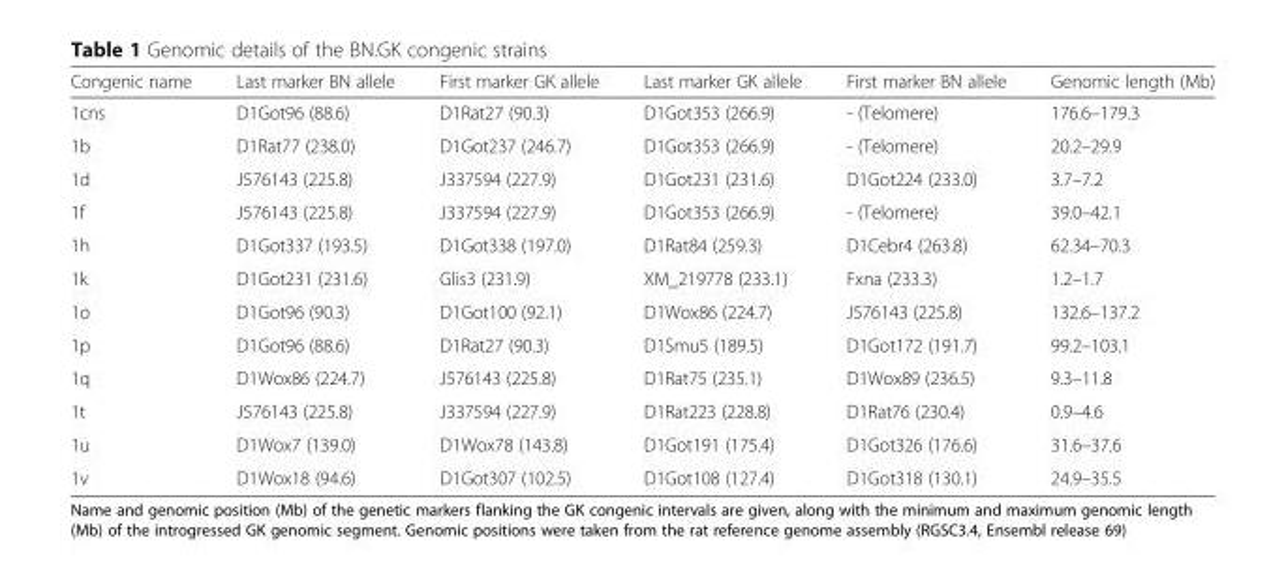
<table><thead><tr><td>Congenic name</td><td>Last marker BN allele</td><td>First marker GK allele</td><td>Last marker GK allele</td><td>First marker BN allele</td><td>Genomic length (Mb)</td></tr></thead><tbody><tr><td>1cns</td><td>D1Got96 (88.6)</td><td>D1Rat27 (90.3)</td><td>D1Got353 (266.9)</td><td>- (Telomere)</td><td>176.6–179.3</td></tr><tr><td>1b</td><td>D1Rat77 (238.0)</td><td>D1Got237 (246.7)</td><td>D1Got353 (266.9)</td><td>- (Telomere)</td><td>20.2–29.9</td></tr><tr><td>1d</td><td>J576143 (225.8)</td><td>J337594 (227.9)</td><td>D1Got231 (231.6)</td><td>D1Got224 (233.0)</td><td>3.7–7.2</td></tr><tr><td>1f</td><td>J576143 (225.8)</td><td>J337594 (227.9)</td><td>D1Got353 (266.9)</td><td>- (Telomere)</td><td>39.0–42.1</td></tr><tr><td>1h</td><td>D1Got337 (193.5)</td><td>D1Got338 (197.0)</td><td>D1Rat84 (259.3)</td><td>D1Cebr4 (263.8)</td><td>62.34–70.3</td></tr><tr><td>1k</td><td>D1Got231 (231.6)</td><td>Glis3 (231.9)</td><td>XM_219778 (233.1)</td><td>Fxna (233.3)</td><td>1.2–1.7</td></tr><tr><td>1o</td><td>D1Got96 (90.3)</td><td>D1Got100 (92.1)</td><td>D1Wox86 (224.7)</td><td>J576143 (225.8)</td><td>132.6–137.2</td></tr><tr><td>1p</td><td>D1Got96 (88.6)</td><td>D1Rat27 (90.3)</td><td>D1Smu5 (189.5)</td><td>D1Got172 (191.7)</td><td>99.2–103.1</td></tr><tr><td>1q</td><td>D1Wox86 (224.7)</td><td>J576143 (225.8)</td><td>D1Rat75 (235.1)</td><td>D1Wox89 (236.5)</td><td>9.3–11.8</td></tr><tr><td>1t</td><td>J576143 (225.8)</td><td>J337594 (227.9)</td><td>D1Rat223 (228.8)</td><td>D1Rat76 (230.4)</td><td>0.9–4.6</td></tr><tr><td>1u</td><td>D1Wox7 (139.0)</td><td>D1Wox78 (143.8)</td><td>D1Got191 (175.4)</td><td>D1Got326 (176.6)</td><td>31.6–37.6</td></tr><tr><td>1v</td><td>D1Wox18 (94.6)</td><td>D1Got307 (102.5)</td><td>D1Got108 (127.4)</td><td>D1Got318 (130.1)</td><td>24.9–35.5</td></tr></tbody></table>